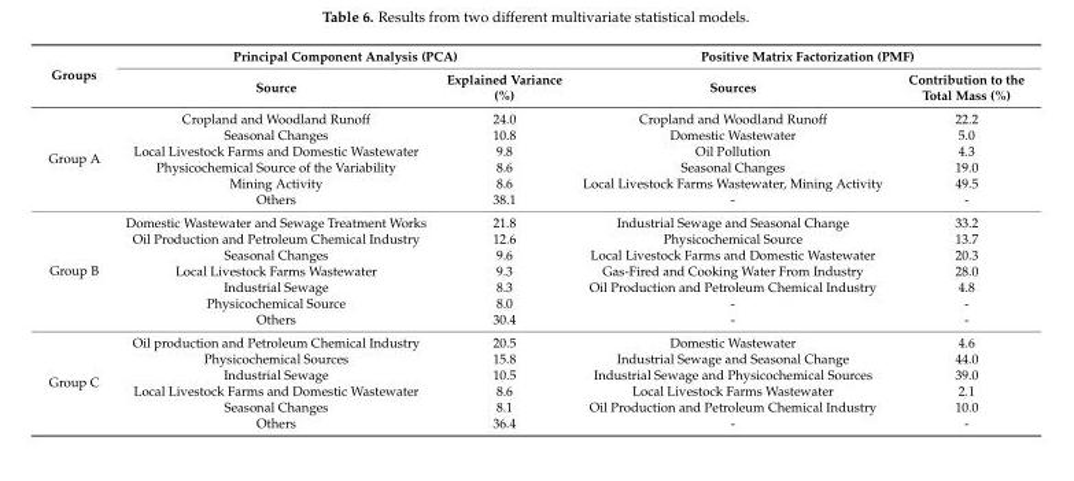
<table><thead><tr><td rowspan="2">Groups</td><td colspan="2">Principal Component Analysis (PCA)</td><td colspan="2">Positive Matrix Factorization (PMF)</td></tr><tr><td>Source</td><td>Explained Variance (%)</td><td>Sources</td><td>Contribution to the Total Mass (%)</td></tr></thead><tbody><tr><td rowspan="6">Group A</td><td>Cropland and Woodland Runoff</td><td>24.0</td><td>Cropland and Woodland Runoff</td><td>22.2</td></tr><tr><td>Seasonal Changes</td><td>10.8</td><td>Domestic Wastewater</td><td>5.0</td></tr><tr><td>Local Livestock Farms and Domestic Wastewater</td><td>9.8</td><td>Oil Pollution</td><td>4.3</td></tr><tr><td>Physicochemical Source of the Variability</td><td>8.6</td><td>Seasonal Changes</td><td>19.0</td></tr><tr><td>Mining Activity</td><td>8.6</td><td>Local Livestock Farms Wastewater, Mining Activity</td><td>49.5</td></tr><tr><td>Others</td><td>38.1</td><td>-</td><td>-</td></tr><tr><td rowspan="7">Group B</td><td>Domestic Wastewater and Sewage Treatment Works</td><td>21.8</td><td>Industrial Sewage and Seasonal Change</td><td>33.2</td></tr><tr><td>Oil Production and Petroleum Chemical Industry</td><td>12.6</td><td>Physicochemical Source</td><td>13.7</td></tr><tr><td>Seasonal Changes</td><td>9.6</td><td>Local Livestock Farms and Domestic Wastewater</td><td>20.3</td></tr><tr><td>Local Livestock Farms Wastewater</td><td>9.3</td><td>Gas-Fired and Cooking Water From Industry</td><td>28.0</td></tr><tr><td>Industrial Sewage</td><td>8.3</td><td>Oil Production and Petroleum Chemical Industry</td><td>4.8</td></tr><tr><td>Physicochemical Source</td><td>8.0</td><td>-</td><td>-</td></tr><tr><td>Others</td><td>30.4</td><td>-</td><td>-</td></tr><tr><td rowspan="6">Group C</td><td>Oil production and Petroleum Chemical Industry</td><td>20.5</td><td>Domestic Wastewater</td><td>4.6</td></tr><tr><td>Physicochemical Sources</td><td>15.8</td><td>Industrial Sewage and Seasonal Change</td><td>44.0</td></tr><tr><td>Industrial Sewage</td><td>10.5</td><td>Industrial Sewage and Physicochemical Sources</td><td>39.0</td></tr><tr><td>Local Livestock Farms and Domestic Wastewater</td><td>8.6</td><td>Local Livestock Farms Wastewater</td><td>2.1</td></tr><tr><td>Seasonal Changes</td><td>8.1</td><td>Oil Production and Petroleum Chemical Industry</td><td>10.0</td></tr><tr><td>Others</td><td>36.4</td><td>-</td><td>-</td></tr></tbody></table>